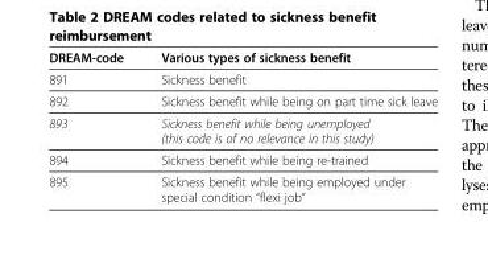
<table><thead><tr><td>DREAM-code</td><td>Various types of sickness benefit</td></tr></thead><tbody><tr><td>891</td><td>Sickness benefit</td></tr><tr><td>892</td><td>Sickness benefit while being on part time sick leave</td></tr><tr><td>893</td><td>Sickness benefit while being unemployed (this code is of no relevance in this study)</td></tr><tr><td>894</td><td>Sickness benefit while being re-trained</td></tr><tr><td>895</td><td>Sickness benefit while being employed under special condition “flexi job”</td></tr></tbody></table>